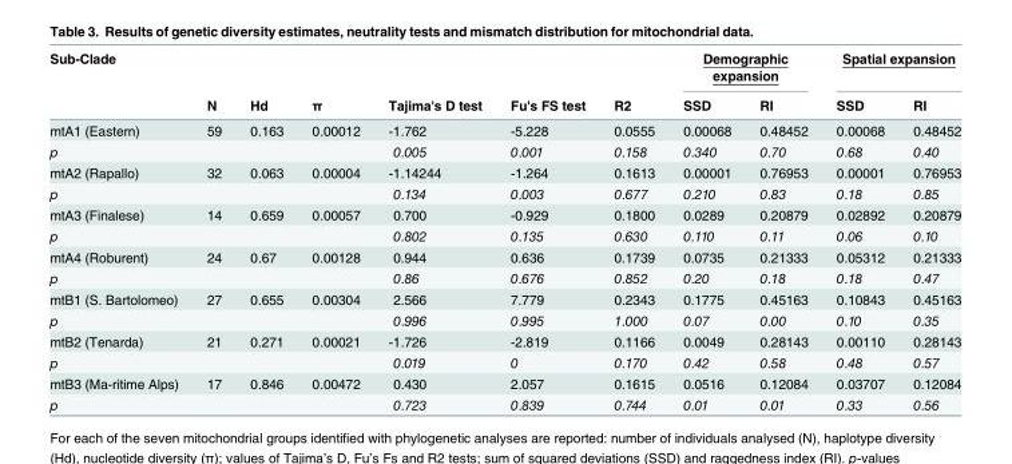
<table><thead><tr><td rowspan="2">Sub-Clade</td><td rowspan="2">N</td><td rowspan="2">Hd</td><td rowspan="2">π</td><td rowspan="2">Tajima&#x27;s D test</td><td rowspan="2">Fu&#x27;s FS test</td><td rowspan="2">R2</td><td colspan="2">Demographic expansion</td><td colspan="2">Spatial expansion</td></tr><tr><td>SSD</td><td>RI</td><td>SSD</td><td>RI</td></tr></thead><tbody><tr><td>mtA1 (Eastern)</td><td>59</td><td>0.163</td><td>0.00012</td><td>-1.762</td><td>-5.228</td><td>0.0555</td><td>0.00068</td><td>0.48452</td><td>0.00068</td><td>0.48452</td></tr><tr><td>p</td><td></td><td></td><td></td><td>0.005</td><td>0.001</td><td>0.158</td><td>0.340</td><td>0.70</td><td>0.68</td><td>0.40</td></tr><tr><td>mtA2 (Rapallo)</td><td>32</td><td>0.063</td><td>0.00004</td><td>-1.14244</td><td>-1.264</td><td>0.1613</td><td>0.00001</td><td>0.76953</td><td>0.00001</td><td>0.76953</td></tr><tr><td>p</td><td></td><td></td><td></td><td>0.134</td><td>0.003</td><td>0.677</td><td>0.210</td><td>0.83</td><td>0.18</td><td>0.85</td></tr><tr><td>mtA3 (Finalese)</td><td>14</td><td>0.659</td><td>0.00057</td><td>0.700</td><td>-0.929</td><td>0.1800</td><td>0.0289</td><td>0.20879</td><td>0.02892</td><td>0.20879</td></tr><tr><td>p</td><td></td><td></td><td></td><td>0.802</td><td>0.135</td><td>0.630</td><td>0.110</td><td>0.11</td><td>0.06</td><td>0.10</td></tr><tr><td>mtA4 (Roburent)</td><td>24</td><td>0.67</td><td>0.00128</td><td>0.944</td><td>0.636</td><td>0.1739</td><td>0.0735</td><td>0.21333</td><td>0.05312</td><td>0.21333</td></tr><tr><td>p</td><td></td><td></td><td></td><td>0.86</td><td>0.676</td><td>0.852</td><td>0.20</td><td>0.18</td><td>0.18</td><td>0.47</td></tr><tr><td>mtB1 (S. Bartolomeo)</td><td>27</td><td>0.655</td><td>0.00304</td><td>2.566</td><td>7.779</td><td>0.2343</td><td>0.1775</td><td>0.45163</td><td>0.10843</td><td>0.45163</td></tr><tr><td>p</td><td></td><td></td><td></td><td>0.996</td><td>0.995</td><td>1.000</td><td>0.07</td><td>0.00</td><td>0.10</td><td>0.35</td></tr><tr><td>mtB2 (Tenarda)</td><td>21</td><td>0.271</td><td>0.00021</td><td>-1.726</td><td>-2.819</td><td>0.1166</td><td>0.0049</td><td>0.28143</td><td>0.00110</td><td>0.28143</td></tr><tr><td>p</td><td></td><td></td><td></td><td>0.019</td><td>0</td><td>0.170</td><td>0.42</td><td>0.58</td><td>0.48</td><td>0.57</td></tr><tr><td>mtB3 (Ma-ritime Alps)</td><td>17</td><td>0.846</td><td>0.00472</td><td>0.430</td><td>2.057</td><td>0.1615</td><td>0.0516</td><td>0.12084</td><td>0.03707</td><td>0.12084</td></tr><tr><td>p</td><td></td><td></td><td></td><td>0.723</td><td>0.839</td><td>0.744</td><td>0.01</td><td>0.01</td><td>0.33</td><td>0.56</td></tr></tbody></table>